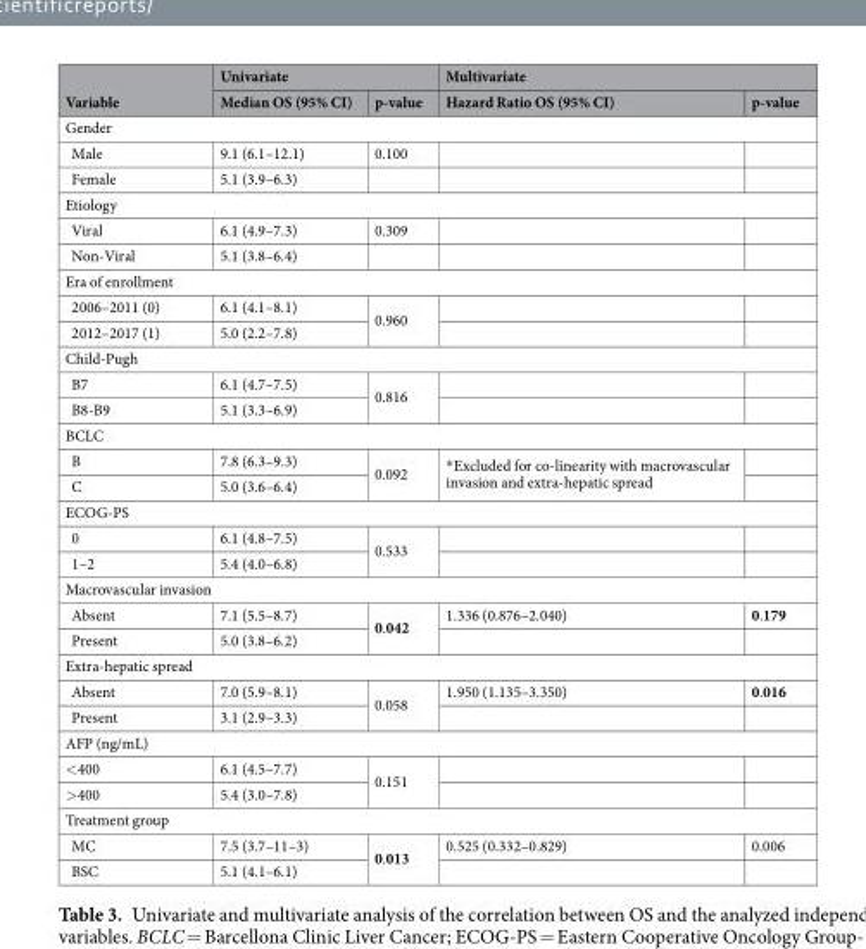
<table><thead><tr><td rowspan="2">Variable</td><td colspan="2">Univariate</td><td colspan="2">Multivariate</td></tr><tr><td>Median OS (95% CI)</td><td>p-value</td><td>Hazard Ratio OS (95% CI)</td><td>p-value</td></tr></thead><tbody><tr><td colspan="5">Gender</td></tr><tr><td>Male</td><td>9.1 (6.1–12.1)</td><td>0.100</td><td></td><td></td></tr><tr><td>Female</td><td>5.1 (3.9–6.3)</td><td></td><td></td><td></td></tr><tr><td colspan="5">Etiology</td></tr><tr><td>Viral</td><td>6.1 (4.9–7.3)</td><td>0.309</td><td></td><td></td></tr><tr><td>Non-Viral</td><td>5.1 (3.8–6.4)</td><td></td><td></td><td></td></tr><tr><td colspan="5">Era of enrollment</td></tr><tr><td>2006–2011 (0)</td><td>6.1 (4.1–8.1)</td><td rowspan="2">0.960</td><td></td><td></td></tr><tr><td>2012–2017 (1)</td><td>5.0 (2.2–7.8)</td><td></td><td></td></tr><tr><td colspan="5">Child-Pugh</td></tr><tr><td>B7</td><td>6.1 (4.7–7.5)</td><td rowspan="2">0.816</td><td></td><td></td></tr><tr><td>B8-B9</td><td>5.1 (3.3–6.9)</td><td></td><td></td></tr><tr><td colspan="5">BCLC</td></tr><tr><td>B</td><td>7.8 (6.3–9.3)</td><td rowspan="2">0.092</td><td rowspan="2">*Excluded for co-linearity with macrovascular invasion and extra-hepatic spread</td><td></td></tr><tr><td>C</td><td>5.0 (3.6–6.4)</td><td></td></tr><tr><td colspan="5">ECOG-PS</td></tr><tr><td>0</td><td>6.1 (4.8–7.5)</td><td rowspan="2">0.533</td><td></td><td></td></tr><tr><td>1–2</td><td>5.4 (4.0–6.8)</td><td></td><td></td></tr><tr><td colspan="5">Macrovascular invasion</td></tr><tr><td>Absent</td><td>7.1 (5.5–8.7)</td><td rowspan="2">0.042</td><td>1.336 (0.876–2.040)</td><td>0.179</td></tr><tr><td>Present</td><td>5.0 (3.8–6.2)</td><td></td><td></td></tr><tr><td colspan="5">Extra-hepatic spread</td></tr><tr><td>Absent</td><td>7.0 (5.9–8.1)</td><td rowspan="2">0.058</td><td>1.950 (1.135–3.350)</td><td>0.016</td></tr><tr><td>Present</td><td>3.1 (2.9–3.3)</td><td></td><td></td></tr><tr><td colspan="5">AFP (ng/mL)</td></tr><tr><td>&lt;400</td><td>6.1 (4.5–7.7)</td><td rowspan="2">0.151</td><td></td><td></td></tr><tr><td>&gt;400</td><td>5.4 (3.0–7.8)</td><td></td><td></td></tr><tr><td colspan="5">Treatment group</td></tr><tr><td>MC</td><td>7.5 (3.7–11–3)</td><td rowspan="2">0.013</td><td>0.525 (0.332–0.829)</td><td>0.006</td></tr><tr><td>BSC</td><td>5.1 (4.1–6.1)</td><td></td><td></td></tr></tbody></table>